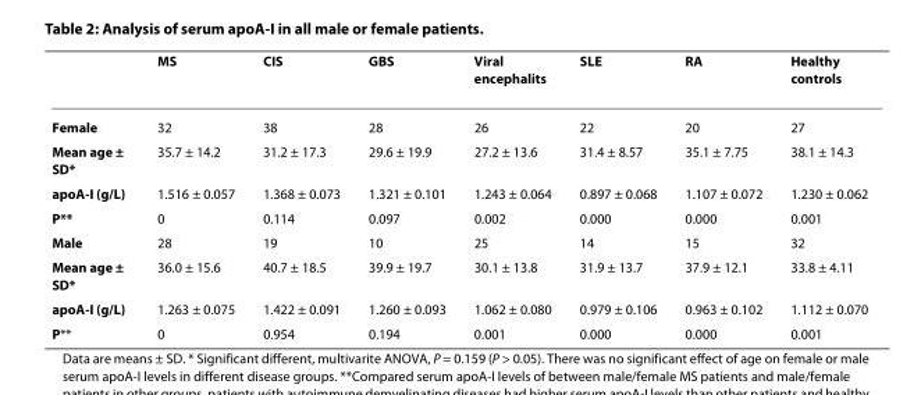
<table><thead><tr><td></td><td>MS</td><td>CIS</td><td>GBS</td><td>Viral encephalits</td><td>SLE</td><td>RA</td><td>Healthy controls</td></tr></thead><tbody><tr><td>Female</td><td>32</td><td>38</td><td>28</td><td>26</td><td>22</td><td>20</td><td>27</td></tr><tr><td>Mean age ± SD*</td><td>35.7 ± 14.2</td><td>31.2 ± 17.3</td><td>29.6 ± 19.9</td><td>27.2 ± 13.6</td><td>31.4 ± 8.57</td><td>35.1 ± 7.75</td><td>38.1 ± 14.3</td></tr><tr><td>apoA-I (g/L)</td><td>1.516 ± 0.057</td><td>1.368 ± 0.073</td><td>1.321 ± 0.101</td><td>1.243 ± 0.064</td><td>0.897 ± 0.068</td><td>1.107 ± 0.072</td><td>1.230 ± 0.062</td></tr><tr><td>P**</td><td>0</td><td>0.114</td><td>0.097</td><td>0.002</td><td>0.000</td><td>0.000</td><td>0.001</td></tr><tr><td>Male</td><td>28</td><td>19</td><td>10</td><td>25</td><td>14</td><td>15</td><td>32</td></tr><tr><td>Mean age ± SD*</td><td>36.0 ± 15.6</td><td>40.7 ± 18.5</td><td>39.9 ± 19.7</td><td>30.1 ± 13.8</td><td>31.9 ± 13.7</td><td>37.9 ± 12.1</td><td>33.8 ± 4.11</td></tr><tr><td>apoA-I (g/L)</td><td>1.263 ± 0.075</td><td>1.422 ± 0.091</td><td>1.260 ± 0.093</td><td>1.062 ± 0.080</td><td>0.979 ± 0.106</td><td>0.963 ± 0.102</td><td>1.112 ± 0.070</td></tr><tr><td>P**</td><td>0</td><td>0.954</td><td>0.194</td><td>0.001</td><td>0.000</td><td>0.000</td><td>0.001</td></tr></tbody></table>